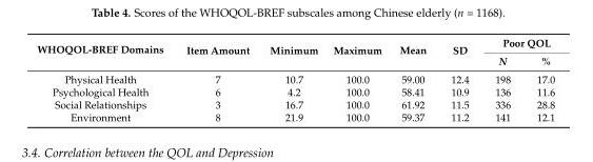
<table><thead><tr><td rowspan="2">WHOQOL-BREF Domains</td><td rowspan="2">Item Amount</td><td rowspan="2">Minimum</td><td rowspan="2">Maximum</td><td rowspan="2">Mean</td><td rowspan="2">SD</td><td colspan="2">Poor QOL</td></tr><tr><td>N</td><td>%</td></tr></thead><tbody><tr><td>Physical Health</td><td>7</td><td>10.7</td><td>100.0</td><td>59.00</td><td>12.4</td><td>198</td><td>17.0</td></tr><tr><td>Psychological Health</td><td>6</td><td>4.2</td><td>100.0</td><td>58.41</td><td>10.9</td><td>136</td><td>11.6</td></tr><tr><td>Social Relationships</td><td>3</td><td>16.7</td><td>100.0</td><td>61.92</td><td>11.5</td><td>336</td><td>28.8</td></tr><tr><td>Environment</td><td>8</td><td>21.9</td><td>100.0</td><td>59.37</td><td>11.2</td><td>141</td><td>12.1</td></tr></tbody></table>